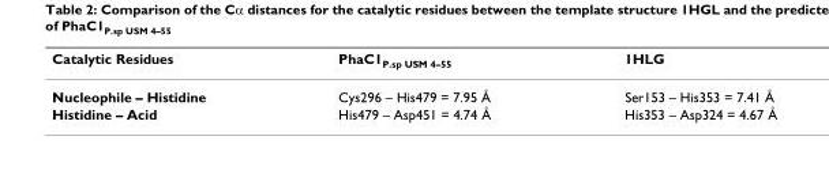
<table><thead><tr><td>Catalytic Residues</td><td>PhaC1P.sp USM 4–55</td><td>1HLG</td></tr></thead><tbody><tr><td>Nucleophile – Histidine</td><td>Cys296 – His479 = 7.95 Å</td><td>Ser153 – His353 = 7.41 Å</td></tr><tr><td>Histidine – Acid</td><td>His479 – Asp451 = 4.74 Å</td><td>His353 – Asp324 = 4.67 Å</td></tr></tbody></table>